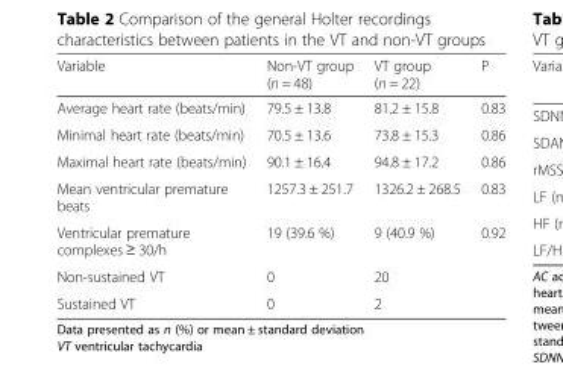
<table><thead><tr><td>Variable</td><td>Non-VT group (n = 48)</td><td>VT group (n = 22)</td><td>P</td></tr></thead><tbody><tr><td>Average heart rate (beats/min)</td><td>79.5 ± 13.8</td><td>81.2 ± 15.8</td><td>0.83</td></tr><tr><td>Minimal heart rate (beats/min)</td><td>70.5 ± 13.6</td><td>73.8 ± 15.3</td><td>0.86</td></tr><tr><td>Maximal heart rate (beats/min)</td><td>90.1 ± 16.4</td><td>94.8 ± 17.2</td><td>0.86</td></tr><tr><td>Mean ventricular premature beats</td><td>1257.3 ± 251.7</td><td>1326.2 ± 268.5</td><td>0.83</td></tr><tr><td>Ventricular premature complexes ≥ 30/h</td><td>19 (39.6 %)</td><td>9 (40.9 %)</td><td>0.92</td></tr><tr><td>Non-sustained VT</td><td>0</td><td>20</td><td></td></tr><tr><td>Sustained VT</td><td>0</td><td>2</td><td></td></tr></tbody></table>